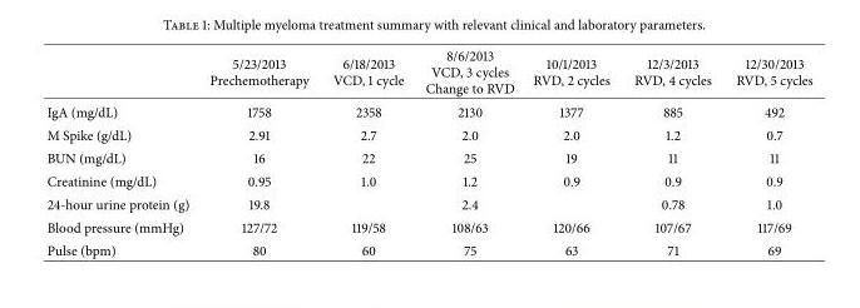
<table><thead><tr><td></td><td>5/23/2013 Prechemotherapy</td><td>6/18/2013 VCD, 1 cycle</td><td>8/6/2013 VCD, 3 cycles Change to RVD</td><td>10/1/2013 RVD, 2 cycles</td><td>12/3/2013 RVD, 4 cycles</td><td>12/30/2013 RVD, 5 cycles</td></tr></thead><tbody><tr><td>IgA (mg/dL)</td><td>1758</td><td>2358</td><td>2130</td><td>1377</td><td>885</td><td>492</td></tr><tr><td>M Spike (g/dL)</td><td>2.91</td><td>2.7</td><td>2.0</td><td>2.0</td><td>1.2</td><td>0.7</td></tr><tr><td>BUN (mg/dL)</td><td>16</td><td>22</td><td>25</td><td>19</td><td>11</td><td>11</td></tr><tr><td>Creatinine (mg/dL)</td><td>0.95</td><td>1.0</td><td>1.2</td><td>0.9</td><td>0.9</td><td>0.9</td></tr><tr><td>24-hour urine protein (g)</td><td>19.8</td><td></td><td>2.4</td><td></td><td>0.78</td><td>1.0</td></tr><tr><td>Blood pressure (mmHg)</td><td>127/72</td><td>119/58</td><td>108/63</td><td>120/66</td><td>107/67</td><td>117/69</td></tr><tr><td>Pulse (bpm)</td><td>80</td><td>60</td><td>75</td><td>63</td><td>71</td><td>69</td></tr></tbody></table>